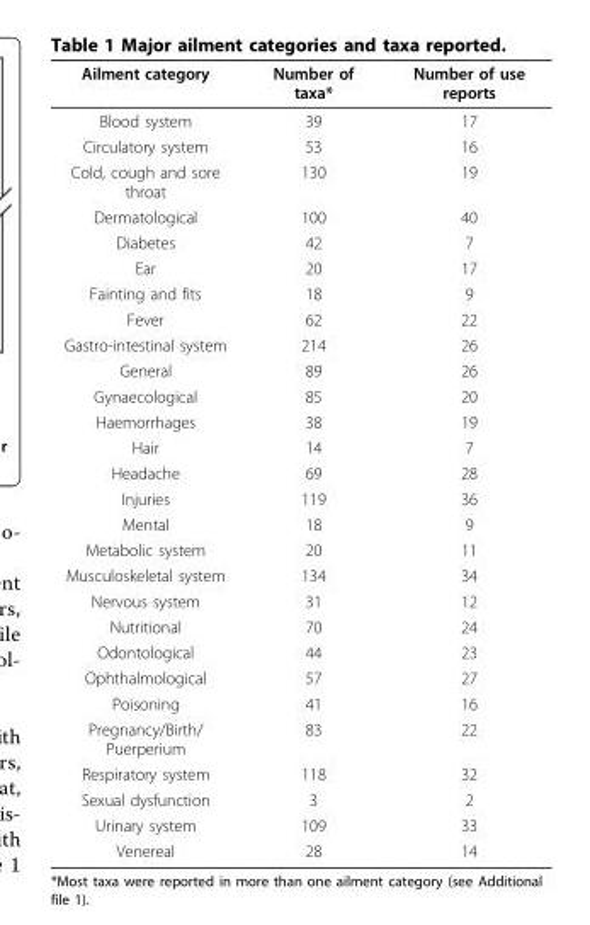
<table><thead><tr><td>Ailment category</td><td>Number of taxa*</td><td>Number of use reports</td></tr></thead><tbody><tr><td>Blood system</td><td>39</td><td>17</td></tr><tr><td>Circulatory system</td><td>53</td><td>16</td></tr><tr><td>Cold, cough and sore throat</td><td>130</td><td>19</td></tr><tr><td>Dermatological</td><td>100</td><td>40</td></tr><tr><td>Diabetes</td><td>42</td><td>7</td></tr><tr><td>Ear</td><td>20</td><td>17</td></tr><tr><td>Fainting and fits</td><td>18</td><td>9</td></tr><tr><td>Fever</td><td>62</td><td>22</td></tr><tr><td>Gastro-intestinal system</td><td>214</td><td>26</td></tr><tr><td>General</td><td>89</td><td>26</td></tr><tr><td>Gynaecological</td><td>85</td><td>20</td></tr><tr><td>Haemorrhages</td><td>38</td><td>19</td></tr><tr><td>Hair</td><td>14</td><td>7</td></tr><tr><td>Headache</td><td>69</td><td>28</td></tr><tr><td>Injuries</td><td>119</td><td>36</td></tr><tr><td>Mental</td><td>18</td><td>9</td></tr><tr><td>Metabolic system</td><td>20</td><td>11</td></tr><tr><td>Musculoskeletal system</td><td>134</td><td>34</td></tr><tr><td>Nervous system</td><td>31</td><td>12</td></tr><tr><td>Nutritional</td><td>70</td><td>24</td></tr><tr><td>Odontological</td><td>44</td><td>23</td></tr><tr><td>Ophthalmological</td><td>57</td><td>27</td></tr><tr><td>Poisoning</td><td>41</td><td>16</td></tr><tr><td>Pregnancy/Birth/ Puerperium</td><td>83</td><td>22</td></tr><tr><td>Respiratory system</td><td>118</td><td>32</td></tr><tr><td>Sexual dysfunction</td><td>3</td><td>2</td></tr><tr><td>Urinary system</td><td>109</td><td>33</td></tr><tr><td>Venereal</td><td>28</td><td>14</td></tr></tbody></table>